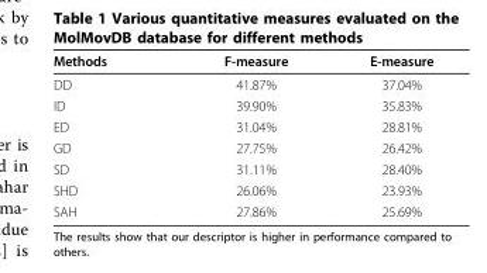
<table><thead><tr><td>Methods</td><td>F-measure</td><td>E-measure</td></tr></thead><tbody><tr><td>DD</td><td>41.87%</td><td>37.04%</td></tr><tr><td>ID</td><td>39.90%</td><td>35.83%</td></tr><tr><td>ED</td><td>31.04%</td><td>28.81%</td></tr><tr><td>GD</td><td>27.75%</td><td>26.42%</td></tr><tr><td>SD</td><td>31.11%</td><td>28.40%</td></tr><tr><td>SHD</td><td>26.06%</td><td>23.93%</td></tr><tr><td>SAH</td><td>27.86%</td><td>25.69%</td></tr></tbody></table>